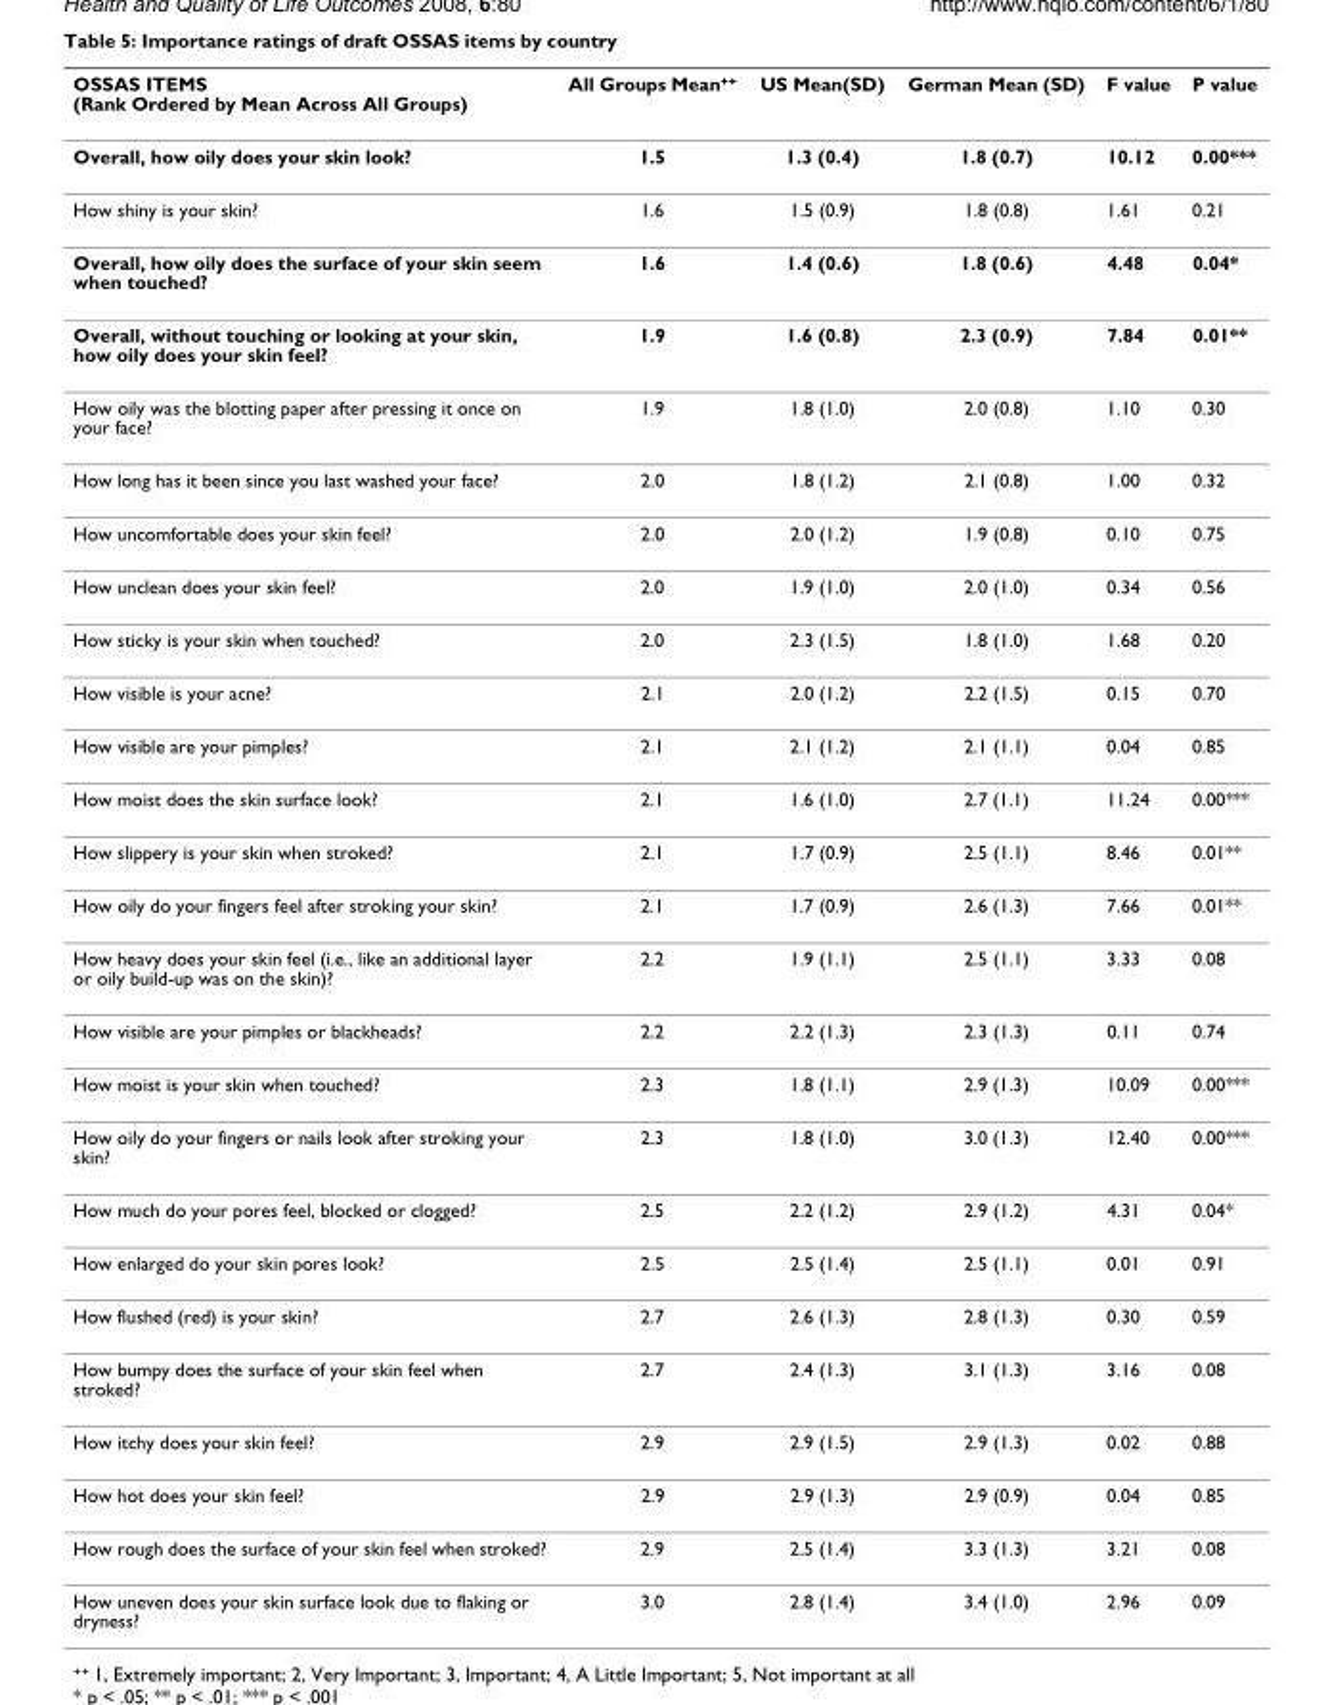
<table><thead><tr><td>OSSAS ITEMS (Rank Ordered by Mean Across All Groups)</td><td>All Groups Mean<sup>++</sup></td><td>US Mean(SD)</td><td>German Mean (SD)</td><td>F value</td><td>P value</td></tr></thead><tbody><tr><td>Overall, how oily does your skin look?</td><td>1.5</td><td>1.3 (0.4)</td><td>1.8 (0.7)</td><td>10.12</td><td>0.00***</td></tr><tr><td>How shiny is your skin?</td><td>1.6</td><td>1.5 (0.9)</td><td>1.8 (0.8)</td><td>1.61</td><td>0.21</td></tr><tr><td>Overall, how oily does the surface of your skin seem when touched?</td><td>1.6</td><td>1.4 (0.6)</td><td>1.8 (0.6)</td><td>4.48</td><td>0.04*</td></tr><tr><td>Overall, without touching or looking at your skin, how oily does your skin feel?</td><td>1.9</td><td>1.6 (0.8)</td><td>2.3 (0.9)</td><td>7.84</td><td>0.01**</td></tr><tr><td>How oily was the blotting paper after pressing it once on your face?</td><td>1.9</td><td>1.8 (1.0)</td><td>2.0 (0.8)</td><td>1.10</td><td>0.30</td></tr><tr><td>How long has it been since you last washed your face?</td><td>2.0</td><td>1.8 (1.2)</td><td>2.1 (0.8)</td><td>1.00</td><td>0.32</td></tr><tr><td>How uncomfortable does your skin feel?</td><td>2.0</td><td>2.0 (1.2)</td><td>1.9 (0.8)</td><td>0.10</td><td>0.75</td></tr><tr><td>How unclean does your skin feel?</td><td>2.0</td><td>1.9 (1.0)</td><td>2.0 (1.0)</td><td>0.34</td><td>0.56</td></tr><tr><td>How sticky is your skin when touched?</td><td>2.0</td><td>2.3 (1.5)</td><td>1.8 (1.0)</td><td>1.68</td><td>0.20</td></tr><tr><td>How visible is your acne?</td><td>2.1</td><td>2.0 (1.2)</td><td>2.2 (1.5)</td><td>0.15</td><td>0.70</td></tr><tr><td>How visible are your pimples?</td><td>2.1</td><td>2.1 (1.2)</td><td>2.1 (1.1)</td><td>0.04</td><td>0.85</td></tr><tr><td>How moist does the skin surface look?</td><td>2.1</td><td>1.6 (1.0)</td><td>2.7 (1.1)</td><td>11.24</td><td>0.00***</td></tr><tr><td>How slippery is your skin when stroked?</td><td>2.1</td><td>1.7 (0.9)</td><td>2.5 (1.1)</td><td>8.46</td><td>0.01**</td></tr><tr><td>How oily do your fingers feel after stroking your skin?</td><td>2.1</td><td>1.7 (0.9)</td><td>2.6 (1.3)</td><td>7.66</td><td>0.01**</td></tr><tr><td>How heavy does your skin feel (i.e., like an additional layer or oily build-up was on the skin)?</td><td>2.2</td><td>1.9 (1.1)</td><td>2.5 (1.1)</td><td>3.33</td><td>0.08</td></tr><tr><td>How visible are your pimples or blackheads?</td><td>2.2</td><td>2.2 (1.3)</td><td>2.3 (1.3)</td><td>0.11</td><td>0.74</td></tr><tr><td>How moist is your skin when touched?</td><td>2.3</td><td>1.8 (1.1)</td><td>2.9 (1.3)</td><td>10.09</td><td>0.00***</td></tr><tr><td>How oily do your fingers or nails look after stroking your skin?</td><td>2.3</td><td>1.8 (1.0)</td><td>3.0 (1.3)</td><td>12.40</td><td>0.00***</td></tr><tr><td>How much do your pores feel, blocked or clogged?</td><td>2.5</td><td>2.2 (1.2)</td><td>2.9 (1.2)</td><td>4.31</td><td>0.04*</td></tr><tr><td>How enlarged do your skin pores look?</td><td>2.5</td><td>2.5 (1.4)</td><td>2.5 (1.1)</td><td>0.01</td><td>0.91</td></tr><tr><td>How flushed (red) is your skin?</td><td>2.7</td><td>2.6 (1.3)</td><td>2.8 (1.3)</td><td>0.30</td><td>0.59</td></tr><tr><td>How bumpy does the surface of your skin feel when stroked?</td><td>2.7</td><td>2.4 (1.3)</td><td>3.1 (1.3)</td><td>3.16</td><td>0.08</td></tr><tr><td>How itchy does your skin feel?</td><td>2.9</td><td>2.9 (1.5)</td><td>2.9 (1.3)</td><td>0.02</td><td>0.88</td></tr><tr><td>How hot does your skin feel?</td><td>2.9</td><td>2.9 (1.3)</td><td>2.9 (0.9)</td><td>0.04</td><td>0.85</td></tr><tr><td>How rough does the surface of your skin feel when stroked?</td><td>2.9</td><td>2.5 (1.4)</td><td>3.3 (1.3)</td><td>3.21</td><td>0.08</td></tr><tr><td>How uneven does your skin surface look due to flaking or dryness?</td><td>3.0</td><td>2.8 (1.4)</td><td>3.4 (1.0)</td><td>2.96</td><td>0.09</td></tr></tbody></table>